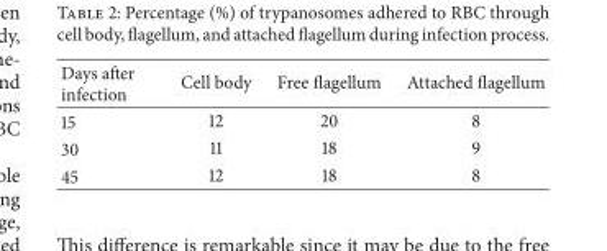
<table><thead><tr><td>Days after infection</td><td>Cell body</td><td>Free flagellum</td><td>Attached flagellum</td></tr></thead><tbody><tr><td>15</td><td>12</td><td>20</td><td>8</td></tr><tr><td>30</td><td>11</td><td>18</td><td>9</td></tr><tr><td>45</td><td>12</td><td>18</td><td>8</td></tr></tbody></table>